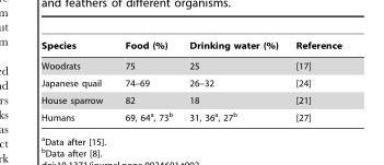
<table><thead><tr><td>Species</td><td>Food (%)</td><td>Drinking water (%)</td><td>Reference</td></tr></thead><tbody><tr><td>Woodrats</td><td>75</td><td>25</td><td>[17]</td></tr><tr><td>Japanese quail</td><td>74–69</td><td>26–32</td><td>[24]</td></tr><tr><td>House sparrow</td><td>82</td><td>18</td><td>[21]</td></tr><tr><td>Humans</td><td>69, 64<sup>a</sup>, 73<sup>b</sup></td><td>31, 36<sup>a</sup>, 27<sup>b</sup></td><td>[27]</td></tr></tbody></table>